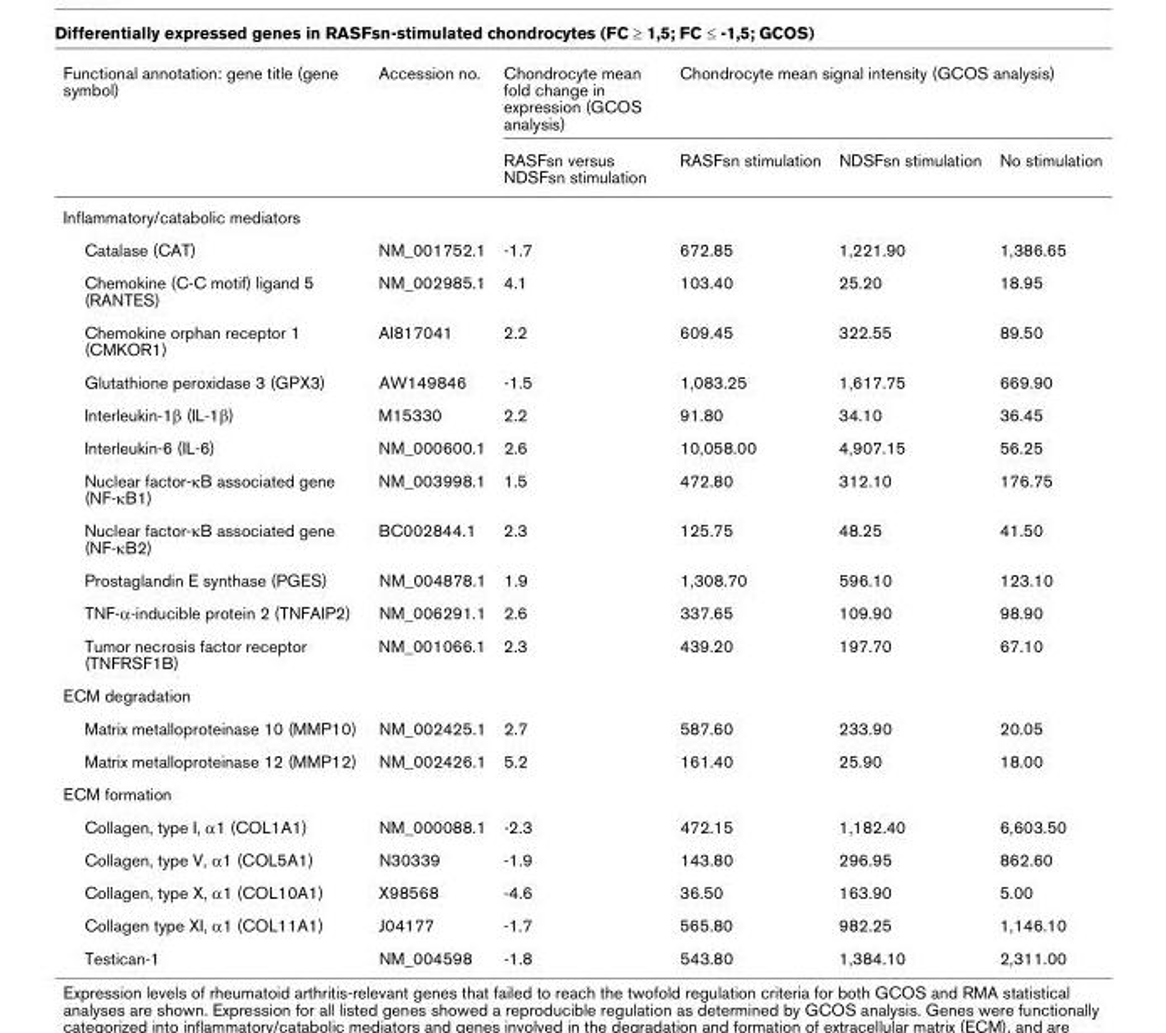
<table><thead><tr><td rowspan="2">Functional annotation: gene title (gene symbol)</td><td rowspan="2">Accession no.</td><td rowspan="2">Chondrocyte mean fold change in expression (GCOS analysis) RASFsn versus NDSFsn stimulation</td><td colspan="3">Chondrocyte mean signal intensity (GCOS analysis)</td></tr><tr><td>RASFsn stimulation</td><td>NDSFsn stimulation</td><td>No stimulation</td></tr></thead><tbody><tr><td colspan="6">Inflammatory/catabolic mediators</td></tr><tr><td>Catalase (CAT)</td><td>NM_001752.1</td><td>-1.7</td><td>672.85</td><td>1,221.90</td><td>1,386.65</td></tr><tr><td>Chemokine (C-C motif) ligand 5 (RANTES)</td><td>NM_002985.1</td><td>4.1</td><td>103.40</td><td>25.20</td><td>18.95</td></tr><tr><td>Chemokine orphan receptor 1 (CMKOR1)</td><td>AI817041</td><td>2.2</td><td>609.45</td><td>322.55</td><td>89.50</td></tr><tr><td>Glutathione peroxidase 3 (GPX3)</td><td>AW149846</td><td>-1.5</td><td>1,083.25</td><td>1,617.75</td><td>669.90</td></tr><tr><td>Interleukin-1β (IL-1β)</td><td>M15330</td><td>2.2</td><td>91.80</td><td>34.10</td><td>36.45</td></tr><tr><td>Interleukin-6 (IL-6)</td><td>NM_000600.1</td><td>2.6</td><td>10,058.00</td><td>4,907.15</td><td>56.25</td></tr><tr><td>Nuclear factor-κB associated gene (NF-κB1)</td><td>NM_003998.1</td><td>1.5</td><td>472.80</td><td>312.10</td><td>176.75</td></tr><tr><td>Nuclear factor-κB associated gene (NF-κB2)</td><td>BC002844.1</td><td>2.3</td><td>125.75</td><td>48.25</td><td>41.50</td></tr><tr><td>Prostaglandin E synthase (PGES)</td><td>NM_004878.1</td><td>1.9</td><td>1,308.70</td><td>596.10</td><td>123.10</td></tr><tr><td>TNF-α-inducible protein 2 (TNFAIP2)</td><td>NM_006291.1</td><td>2.6</td><td>337.65</td><td>109.90</td><td>98.90</td></tr><tr><td>Tumor necrosis factor receptor (TNFRSF1B)</td><td>NM_001066.1</td><td>2.3</td><td>439.20</td><td>197.70</td><td>67.10</td></tr><tr><td colspan="6">ECM degradation</td></tr><tr><td>Matrix metalloproteinase 10 (MMP10)</td><td>NM_002425.1</td><td>2.7</td><td>587.60</td><td>233.90</td><td>20.05</td></tr><tr><td>Matrix metalloproteinase 12 (MMP12)</td><td>NM_002426.1</td><td>5.2</td><td>161.40</td><td>25.90</td><td>18.00</td></tr><tr><td colspan="6">ECM formation</td></tr><tr><td>Collagen, type I, α1 (COL1A1)</td><td>NM_000088.1</td><td>-2.3</td><td>472.15</td><td>1,182.40</td><td>6,603.50</td></tr><tr><td>Collagen, type V, α1 (COL5A1)</td><td>N30339</td><td>-1.9</td><td>143.80</td><td>296.95</td><td>862.60</td></tr><tr><td>Collagen, type X, α1 (COL10A1)</td><td>X98568</td><td>-4.6</td><td>36.50</td><td>163.90</td><td>5.00</td></tr><tr><td>Collagen type XI, α1 (COL11A1)</td><td>J04177</td><td>-1.7</td><td>565.80</td><td>982.25</td><td>1,146.10</td></tr><tr><td>Testican-1</td><td>NM_004598</td><td>-1.8</td><td>543.80</td><td>1,384.10</td><td>2,311.00</td></tr></tbody></table>